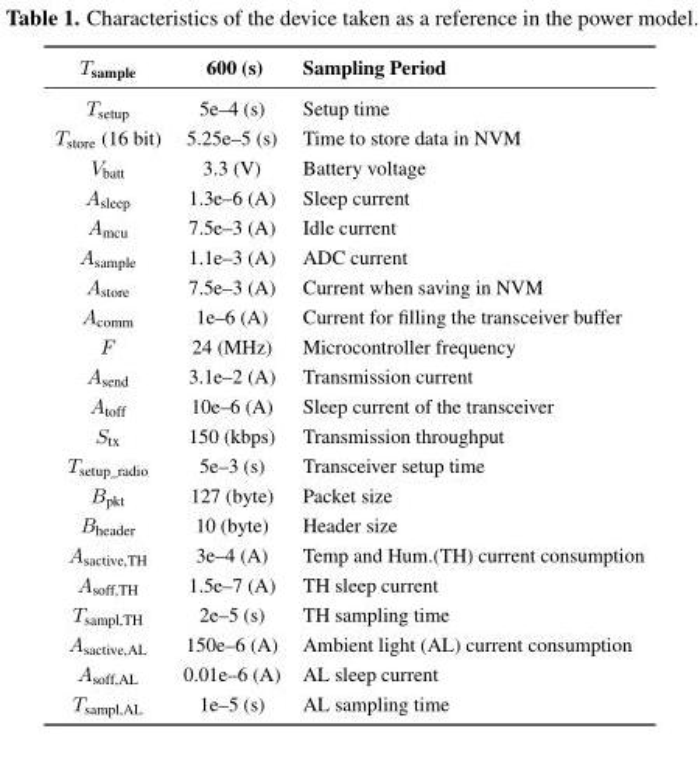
<table><thead><tr><td>T<sub>sample</sub></td><td>600 (s)</td><td>Sampling Period</td></tr></thead><tbody><tr><td>T<sub>setup</sub></td><td>5e–4 (s)</td><td>Setup time</td></tr><tr><td>T<sub>store</sub> (16 bit)</td><td>5.25e–5 (s)</td><td>Time to store data in NVM</td></tr><tr><td>V<sub>batt</sub></td><td>3.3 (V)</td><td>Battery voltage</td></tr><tr><td>A<sub>sleep</sub></td><td>1.3e–6 (A)</td><td>Sleep current</td></tr><tr><td>A<sub>mcu</sub></td><td>7.5e–3 (A)</td><td>Idle current</td></tr><tr><td>A<sub>sample</sub></td><td>1.1e–3 (A)</td><td>ADC current</td></tr><tr><td>A<sub>store</sub></td><td>7.5e–3 (A)</td><td>Current when saving in NVM</td></tr><tr><td>A<sub>comm</sub></td><td>1e–6 (A)</td><td>Current for filling the transceiver buffer</td></tr><tr><td>F</td><td>24 (MHz)</td><td>Microcontroller frequency</td></tr><tr><td>A<sub>send</sub></td><td>3.1e–2 (A)</td><td>Transmission current</td></tr><tr><td>A<sub>toff</sub></td><td>10e–6 (A)</td><td>Sleep current of the transceiver</td></tr><tr><td>S<sub>tx</sub></td><td>150 (kbps)</td><td>Transmission throughput</td></tr><tr><td>T<sub>setup_radio</sub></td><td>5e–3 (s)</td><td>Transceiver setup time</td></tr><tr><td>B<sub>pkt</sub></td><td>127 (byte)</td><td>Packet size</td></tr><tr><td>B<sub>header</sub></td><td>10 (byte)</td><td>Header size</td></tr><tr><td>A<sub>sactive,TH</sub></td><td>3e–4 (A)</td><td>Temp and Hum.(TH) current consumption</td></tr><tr><td>A<sub>soff,TH</sub></td><td>1.5e–7 (A)</td><td>TH sleep current</td></tr><tr><td>T<sub>sampl,TH</sub></td><td>2e–5 (s)</td><td>TH sampling time</td></tr><tr><td>A<sub>sactive,AL</sub></td><td>150e–6 (A)</td><td>Ambient light (AL) current consumption</td></tr><tr><td>A<sub>soff,AL</sub></td><td>0.01e–6 (A)</td><td>AL sleep current</td></tr><tr><td>T<sub>sampl,AL</sub></td><td>1e–5 (s)</td><td>AL sampling time</td></tr></tbody></table>